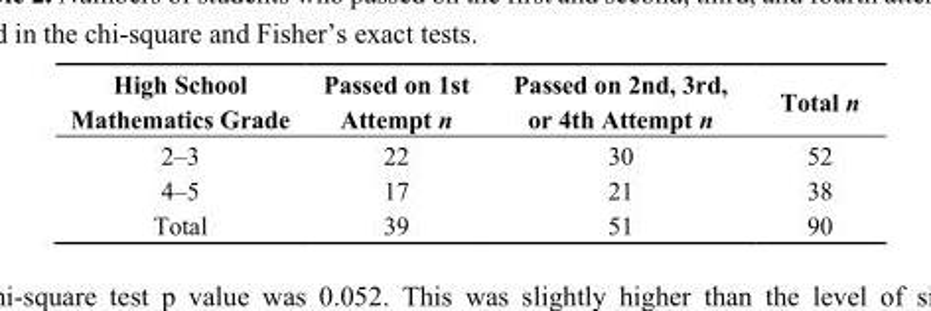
<table><thead><tr><td>High School Mathematics Grade</td><td>Passed on 1st Attempt n</td><td>Passed on 2nd, 3rd, or 4th Attempt n</td><td>Total n</td></tr></thead><tbody><tr><td>2–3</td><td>22</td><td>30</td><td>52</td></tr><tr><td>4–5</td><td>17</td><td>21</td><td>38</td></tr><tr><td>Total</td><td>39</td><td>51</td><td>90</td></tr></tbody></table>